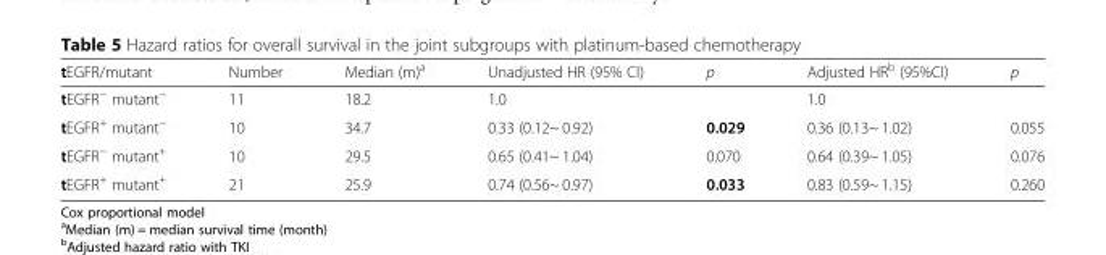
<table><thead><tr><td>tEGFR/mutant</td><td>Number</td><td>Median (m)<sup>a</sup></td><td>Unadjusted HR (95% CI)</td><td>p</td><td>Adjusted HR<sup>b</sup> (95%CI)</td><td>p</td></tr></thead><tbody><tr><td>tEGFR<sup>−</sup> mutant<sup>−</sup></td><td>11</td><td>18.2</td><td>1.0</td><td></td><td>1.0</td><td></td></tr><tr><td>tEGFR<sup>+</sup> mutant<sup>−</sup></td><td>10</td><td>34.7</td><td>0.33 (0.12~ 0.92)</td><td>0.029</td><td>0.36 (0.13~ 1.02)</td><td>0.055</td></tr><tr><td>tEGFR<sup>−</sup> mutant<sup>+</sup></td><td>10</td><td>29.5</td><td>0.65 (0.41~ 1.04)</td><td>0.070</td><td>0.64 (0.39~ 1.05)</td><td>0.076</td></tr><tr><td>tEGFR<sup>+</sup> mutant<sup>+</sup></td><td>21</td><td>25.9</td><td>0.74 (0.56~ 0.97)</td><td>0.033</td><td>0.83 (0.59~ 1.15)</td><td>0.260</td></tr></tbody></table>